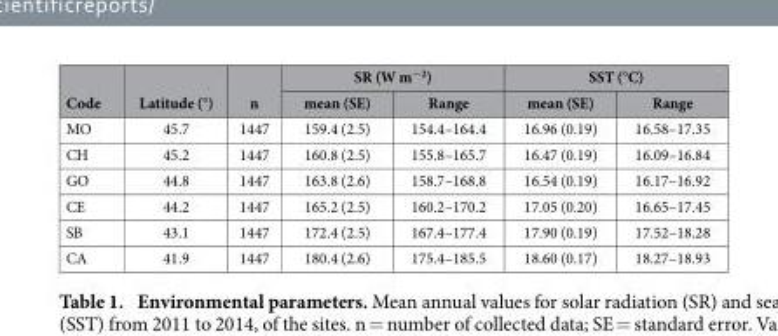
<table><thead><tr><td rowspan="2">Code</td><td rowspan="2">Latitude (°)</td><td rowspan="2">n</td><td colspan="2">SR (W m<sup>−2</sup>)</td><td colspan="2">SST (°C)</td></tr><tr><td>mean (SE)</td><td>Range</td><td>mean (SE)</td><td>Range</td></tr></thead><tbody><tr><td>MO</td><td>45.7</td><td>1447</td><td>159.4 (2.5)</td><td>154.4–164.4</td><td>16.96 (0.19)</td><td>16.58–17.35</td></tr><tr><td>CH</td><td>45.2</td><td>1447</td><td>160.8 (2.5)</td><td>155.8–165.7</td><td>16.47 (0.19)</td><td>16.09–16.84</td></tr><tr><td>GO</td><td>44.8</td><td>1447</td><td>163.8 (2.6)</td><td>158.7–168.8</td><td>16.54 (0.19)</td><td>16.17–16.92</td></tr><tr><td>CE</td><td>44.2</td><td>1447</td><td>165.2 (2.5)</td><td>160.2–170.2</td><td>17.05 (0.20)</td><td>16.65–17.45</td></tr><tr><td>SB</td><td>43.1</td><td>1447</td><td>172.4 (2.5)</td><td>167.4–177.4</td><td>17.90 (0.19)</td><td>17.52–18.28</td></tr><tr><td>CA</td><td>41.9</td><td>1447</td><td>180.4 (2.6)</td><td>175.4–185.5</td><td>18.60 (0.17)</td><td>18.27–18.93</td></tr></tbody></table>